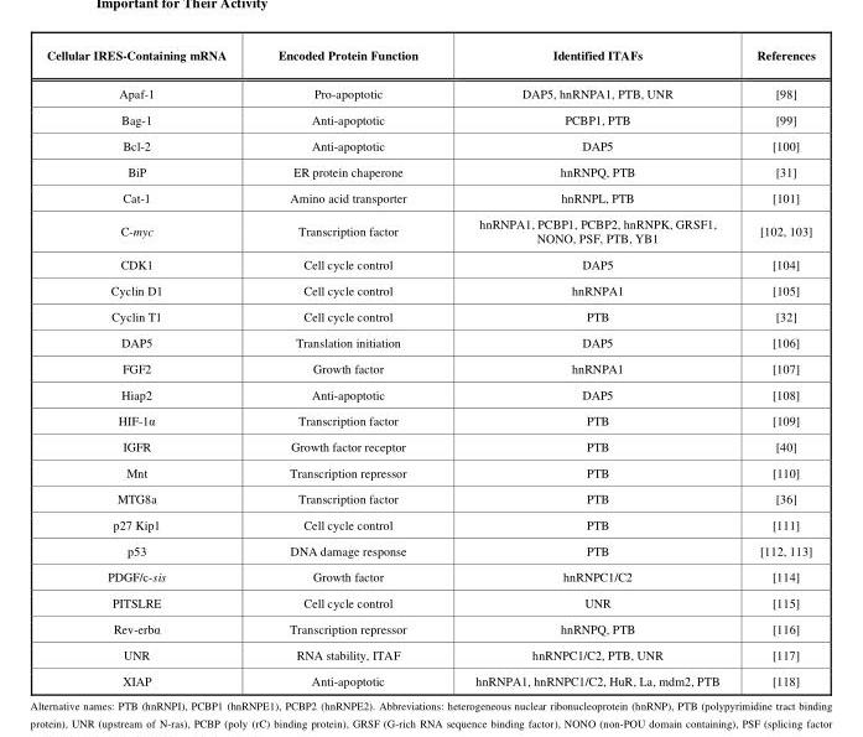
<table><thead><tr><td>Cellular IRES-Containing mRNA</td><td>Encoded Protein Function</td><td>Identified ITAFs</td><td>References</td></tr></thead><tbody><tr><td>Apaf-1</td><td>Pro-apoptotic</td><td>DAP5, hnRNPA1, PTB, UNR</td><td>[98]</td></tr><tr><td>Bag-1</td><td>Anti-apoptotic</td><td>PCBP1, PTB</td><td>[99]</td></tr><tr><td>Bcl-2</td><td>Anti-apoptotic</td><td>DAP5</td><td>[100]</td></tr><tr><td>BiP</td><td>ER protein chaperone</td><td>hnRNPQ, PTB</td><td>[31]</td></tr><tr><td>Cat-1</td><td>Amino acid transporter</td><td>hnRNPL, PTB</td><td>[101]</td></tr><tr><td>C-myc</td><td>Transcription factor</td><td>hnRNPA1, PCBP1, PCBP2, hnRNPK, GRSF1, NONO, PSF, PTB, YB1</td><td>[102, 103]</td></tr><tr><td>CDK1</td><td>Cell cycle control</td><td>DAP5</td><td>[104]</td></tr><tr><td>Cyclin D1</td><td>Cell cycle control</td><td>hnRNPA1</td><td>[105]</td></tr><tr><td>Cyclin T1</td><td>Cell cycle control</td><td>PTB</td><td>[32]</td></tr><tr><td>DAP5</td><td>Translation initiation</td><td>DAP5</td><td>[106]</td></tr><tr><td>FGF2</td><td>Growth factor</td><td>hnRNPA1</td><td>[107]</td></tr><tr><td>Hiap2</td><td>Anti-apoptotic</td><td>DAP5</td><td>[108]</td></tr><tr><td>HIF-1α</td><td>Transcription factor</td><td>PTB</td><td>[109]</td></tr><tr><td>IGFR</td><td>Growth factor receptor</td><td>PTB</td><td>[40]</td></tr><tr><td>Mnt</td><td>Transcription repressor</td><td>PTB</td><td>[110]</td></tr><tr><td>MTG8a</td><td>Transcription factor</td><td>PTB</td><td>[36]</td></tr><tr><td>p27 Kip1</td><td>Cell cycle control</td><td>PTB</td><td>[111]</td></tr><tr><td>p53</td><td>DNA damage response</td><td>PTB</td><td>[112, 113]</td></tr><tr><td>PDGF/c-sis</td><td>Growth factor</td><td>hnRNPC1/C2</td><td>[114]</td></tr><tr><td>PITSLRE</td><td>Cell cycle control</td><td>UNR</td><td>[115]</td></tr><tr><td>Rev-erbα</td><td>Transcription repressor</td><td>hnRNPQ, PTB</td><td>[116]</td></tr><tr><td>UNR</td><td>RNA stability, ITAF</td><td>hnRNPC1/C2, PTB, UNR</td><td>[117]</td></tr><tr><td>XIAP</td><td>Anti-apoptotic</td><td>hnRNPA1, hnRNPC1/C2, HuR, La, mdm2, PTB</td><td>[118]</td></tr></tbody></table>